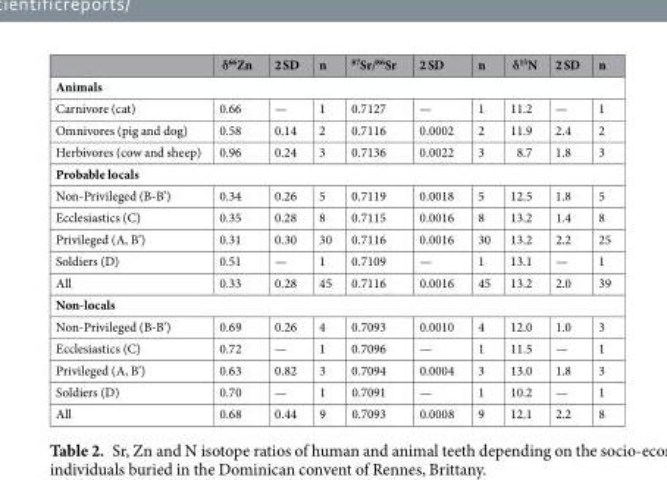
<table><thead><tr><td></td><td>δ<sup>66</sup>Zn</td><td>2 SD</td><td>n</td><td><sup>87</sup>Sr/<sup>86</sup>Sr</td><td>2 SD</td><td>n</td><td>δ<sup>15</sup>N</td><td>2 SD</td><td>n</td></tr></thead><tbody><tr><td colspan="10">Animals</td></tr><tr><td>Carnivore (cat)</td><td>0.66</td><td>—</td><td>1</td><td>0.7127</td><td>—</td><td>1</td><td>11.2</td><td>—</td><td>1</td></tr><tr><td>Omnivores (pig and dog)</td><td>0.58</td><td>0.14</td><td>2</td><td>0.7116</td><td>0.0002</td><td>2</td><td>11.9</td><td>2.4</td><td>2</td></tr><tr><td>Herbivores (cow and sheep)</td><td>0.96</td><td>0.24</td><td>3</td><td>0.7136</td><td>0.0022</td><td>3</td><td>8.7</td><td>1.8</td><td>3</td></tr><tr><td colspan="10">Probable locals</td></tr><tr><td>Non-Privileged (B-B’)</td><td>0.34</td><td>0.26</td><td>5</td><td>0.7119</td><td>0.0018</td><td>5</td><td>12.5</td><td>1.8</td><td>5</td></tr><tr><td>Ecclesiastics (C)</td><td>0.35</td><td>0.28</td><td>8</td><td>0.7115</td><td>0.0016</td><td>8</td><td>13.2</td><td>1.4</td><td>8</td></tr><tr><td>Privileged (A, B’)</td><td>0.31</td><td>0.30</td><td>30</td><td>0.7116</td><td>0.0016</td><td>30</td><td>13.2</td><td>2.2</td><td>25</td></tr><tr><td>Soldiers (D)</td><td>0.51</td><td>—</td><td>1</td><td>0.7109</td><td>—</td><td>1</td><td>13.1</td><td>—</td><td>1</td></tr><tr><td>All</td><td>0.33</td><td>0.28</td><td>45</td><td>0.7116</td><td>0.0016</td><td>45</td><td>13.2</td><td>2.0</td><td>39</td></tr><tr><td colspan="10">Non-locals</td></tr><tr><td>Non-Privileged (B-B’)</td><td>0.69</td><td>0.26</td><td>4</td><td>0.7093</td><td>0.0010</td><td>4</td><td>12.0</td><td>1.0</td><td>3</td></tr><tr><td>Ecclesiastics (C)</td><td>0.72</td><td>—</td><td>1</td><td>0.7096</td><td>—</td><td>1</td><td>11.5</td><td>—</td><td>1</td></tr><tr><td>Privileged (A, B’)</td><td>0.63</td><td>0.82</td><td>3</td><td>0.7094</td><td>0.0004</td><td>3</td><td>13.0</td><td>1.8</td><td>3</td></tr><tr><td>Soldiers (D)</td><td>0.70</td><td>—</td><td>1</td><td>0.7091</td><td>—</td><td>1</td><td>10.2</td><td>—</td><td>1</td></tr><tr><td>All</td><td>0.68</td><td>0.44</td><td>9</td><td>0.7093</td><td>0.0008</td><td>9</td><td>12.1</td><td>2.2</td><td>8</td></tr></tbody></table>